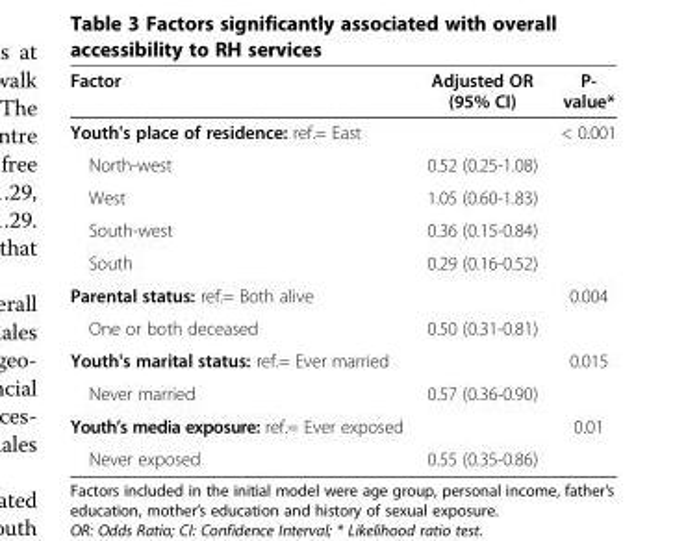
<table><thead><tr><td>Factor</td><td>Adjusted OR (95% CI)</td><td>P- value*</td></tr></thead><tbody><tr><td>Youth&#x27;s place of residence: ref.= East</td><td></td><td>&lt; 0.001</td></tr><tr><td>North-west</td><td>0.52 (0.25-1.08)</td><td></td></tr><tr><td>West</td><td>1.05 (0.60-1.83)</td><td></td></tr><tr><td>South-west</td><td>0.36 (0.15-0.84)</td><td></td></tr><tr><td>South</td><td>0.29 (0.16-0.52)</td><td></td></tr><tr><td>Parental status: ref.= Both alive</td><td></td><td>0.004</td></tr><tr><td>One or both deceased</td><td>0.50 (0.31-0.81)</td><td></td></tr><tr><td>Youth&#x27;s marital status: ref.= Ever married</td><td></td><td>0.015</td></tr><tr><td>Never married</td><td>0.57 (0.36-0.90)</td><td></td></tr><tr><td>Youth’s media exposure: ref.= Ever exposed</td><td></td><td>0.01</td></tr><tr><td>Never exposed</td><td>0.55 (0.35-0.86)</td><td></td></tr></tbody></table>